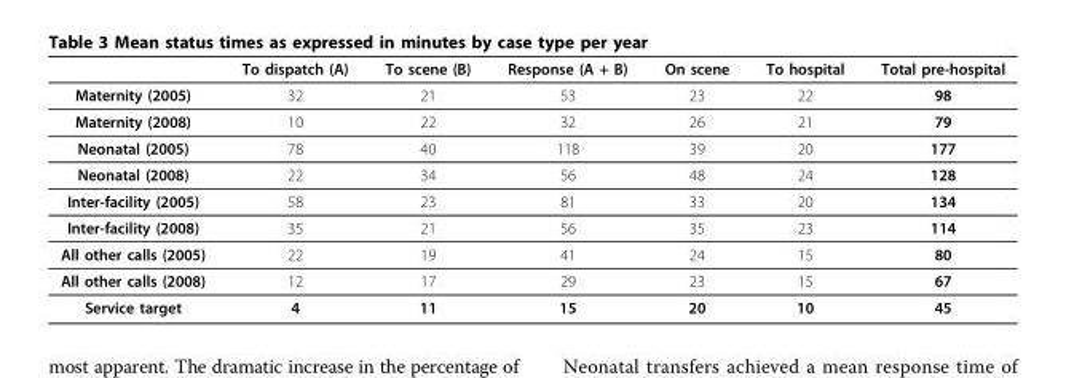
<table><thead><tr><td></td><td>To dispatch (A)</td><td>To scene (B)</td><td>Response (A + B)</td><td>On scene</td><td>To hospital</td><td>Total pre-hospital</td></tr></thead><tbody><tr><td>Maternity (2005)</td><td>32</td><td>21</td><td>53</td><td>23</td><td>22</td><td>98</td></tr><tr><td>Maternity (2008)</td><td>10</td><td>22</td><td>32</td><td>26</td><td>21</td><td>79</td></tr><tr><td>Neonatal (2005)</td><td>78</td><td>40</td><td>118</td><td>39</td><td>20</td><td>177</td></tr><tr><td>Neonatal (2008)</td><td>22</td><td>34</td><td>56</td><td>48</td><td>24</td><td>128</td></tr><tr><td>Inter-facility (2005)</td><td>58</td><td>23</td><td>81</td><td>33</td><td>20</td><td>134</td></tr><tr><td>Inter-facility (2008)</td><td>35</td><td>21</td><td>56</td><td>35</td><td>23</td><td>114</td></tr><tr><td>All other calls (2005)</td><td>22</td><td>19</td><td>41</td><td>24</td><td>15</td><td>80</td></tr><tr><td>All other calls (2008)</td><td>12</td><td>17</td><td>29</td><td>23</td><td>15</td><td>67</td></tr><tr><td>Service target</td><td>4</td><td>11</td><td>15</td><td>20</td><td>10</td><td>45</td></tr></tbody></table>